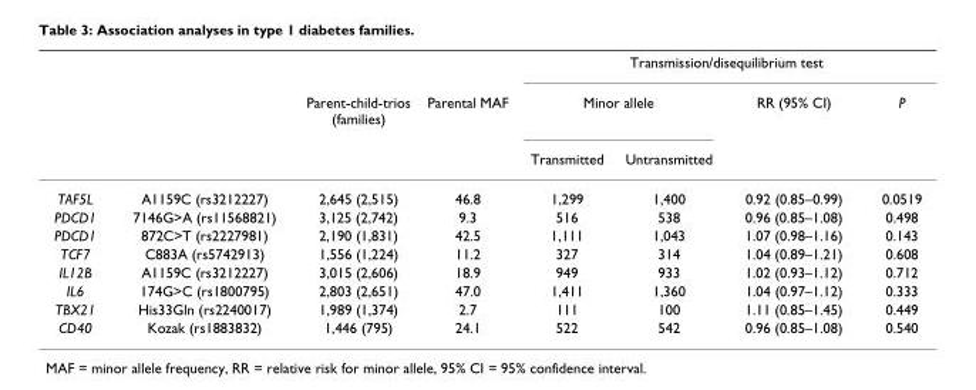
<table><thead><tr><td rowspan="3"></td><td rowspan="3"></td><td rowspan="3">Parent-child-trios (families)</td><td rowspan="3">Parental MAF</td><td colspan="4">Transmission/disequilibrium test</td></tr><tr><td colspan="2">Minor allele</td><td rowspan="2">RR (95% CI)</td><td rowspan="2">P</td></tr><tr><td>Transmitted</td><td>Untransmitted</td></tr></thead><tbody><tr><td>TAF5L</td><td>A1159C (rs3212227)</td><td>2,645 (2,515)</td><td>46.8</td><td>1,299</td><td>1,400</td><td>0.92 (0.85–0.99)</td><td>0.0519</td></tr><tr><td>PDCD1</td><td>7146G&gt;A (rs11568821)</td><td>3,125 (2,742)</td><td>9.3</td><td>516</td><td>538</td><td>0.96 (0.85–1.08)</td><td>0.498</td></tr><tr><td>PDCD1</td><td>872C&gt;T (rs2227981)</td><td>2,190 (1,831)</td><td>42.5</td><td>1,111</td><td>1,043</td><td>1.07 (0.98–1.16)</td><td>0.143</td></tr><tr><td>TCF7</td><td>C883A (rs5742913)</td><td>1,556 (1,224)</td><td>11.2</td><td>327</td><td>314</td><td>1.04 (0.89–1.21)</td><td>0.608</td></tr><tr><td>IL12B</td><td>A1159C (rs3212227)</td><td>3,015 (2,606)</td><td>18.9</td><td>949</td><td>933</td><td>1.02 (0.93–1.12)</td><td>0.712</td></tr><tr><td>IL6</td><td>174G&gt;C (rs1800795)</td><td>2,803 (2,651)</td><td>47.0</td><td>1,411</td><td>1,360</td><td>1.04 (0.97–1.12)</td><td>0.333</td></tr><tr><td>TBX21</td><td>His33Gln (rs2240017)</td><td>1,989 (1,374)</td><td>2.7</td><td>111</td><td>100</td><td>1.11 (0.85–1.45)</td><td>0.449</td></tr><tr><td>CD40</td><td>Kozak (rs1883832)</td><td>1,446 (795)</td><td>24.1</td><td>522</td><td>542</td><td>0.96 (0.85–1.08)</td><td>0.540</td></tr></tbody></table>